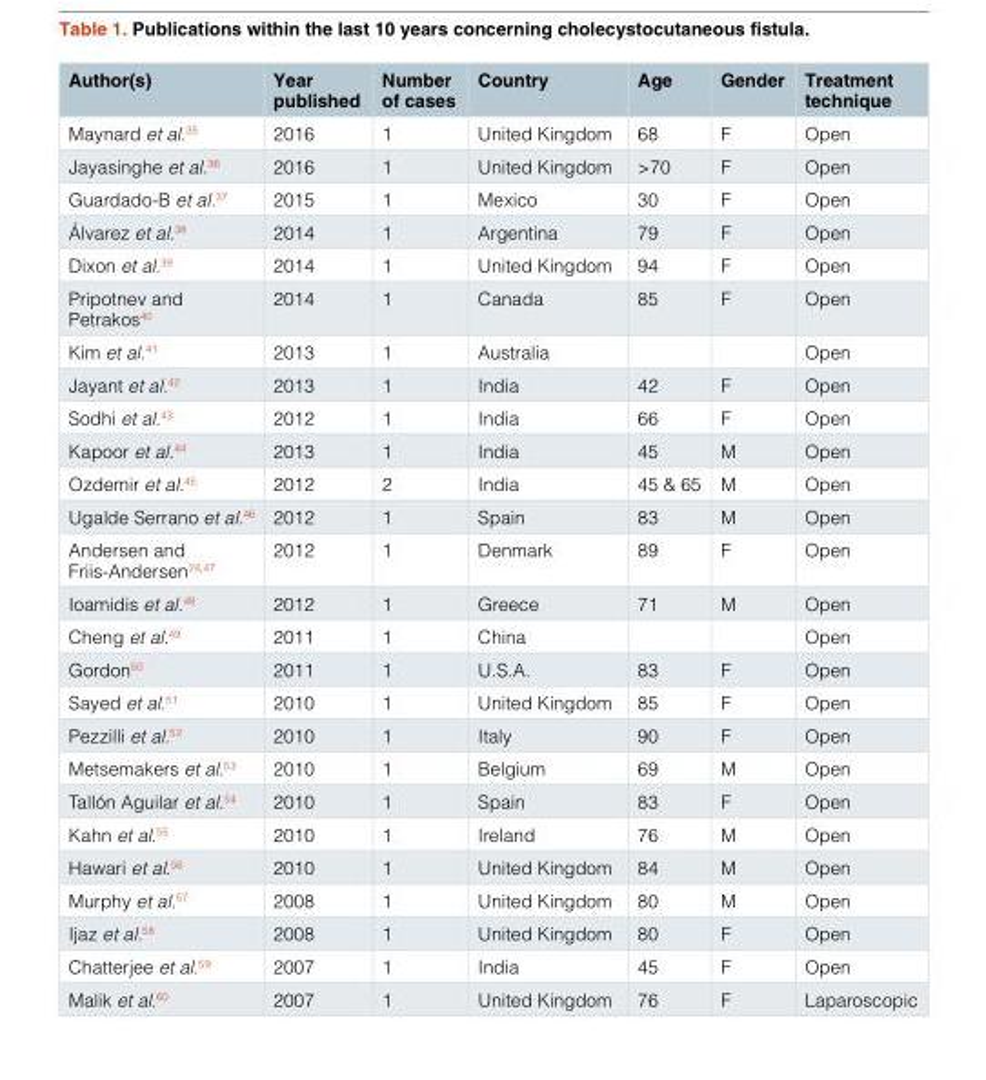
<table><thead><tr><td>Author(s)</td><td>Year published</td><td>Number of cases</td><td>Country</td><td>Age</td><td>Gender</td><td>Treatment technique</td></tr></thead><tbody><tr><td>Maynard et al.<sup>35</sup></td><td>2016</td><td>1</td><td>United Kingdom</td><td>68</td><td>F</td><td>Open</td></tr><tr><td>Jayasinghe et al.<sup>36</sup></td><td>2016</td><td>1</td><td>United Kingdom</td><td>&gt;70</td><td>F</td><td>Open</td></tr><tr><td>Guardado-B et al.<sup>37</sup></td><td>2015</td><td>1</td><td>Mexico</td><td>30</td><td>F</td><td>Open</td></tr><tr><td>Álvarez et al.<sup>38</sup></td><td>2014</td><td>1</td><td>Argentina</td><td>79</td><td>F</td><td>Open</td></tr><tr><td>Dixon et al.<sup>39</sup></td><td>2014</td><td>1</td><td>United Kingdom</td><td>94</td><td>F</td><td>Open</td></tr><tr><td>Pripotnev and Petrakos<sup>40</sup></td><td>2014</td><td>1</td><td>Canada</td><td>85</td><td>F</td><td>Open</td></tr><tr><td>Kim et al.<sup>41</sup></td><td>2013</td><td>1</td><td>Australia</td><td></td><td></td><td>Open</td></tr><tr><td>Jayant et al.<sup>42</sup></td><td>2013</td><td>1</td><td>India</td><td>42</td><td>F</td><td>Open</td></tr><tr><td>Sodhi et al.<sup>43</sup></td><td>2012</td><td>1</td><td>India</td><td>66</td><td>F</td><td>Open</td></tr><tr><td>Kapoor et al.<sup>44</sup></td><td>2013</td><td>1</td><td>India</td><td>45</td><td>M</td><td>Open</td></tr><tr><td>Ozdemir et al.<sup>45</sup></td><td>2012</td><td>2</td><td>India</td><td>45 &amp; 65</td><td>M</td><td>Open</td></tr><tr><td>Ugalde Serrano et al.<sup>46</sup></td><td>2012</td><td>1</td><td>Spain</td><td>83</td><td>M</td><td>Open</td></tr><tr><td>Andersen and Friis-Andersen<sup>24,47</sup></td><td>2012</td><td>1</td><td>Denmark</td><td>89</td><td>F</td><td>Open</td></tr><tr><td>Ioamidis et al.<sup>48</sup></td><td>2012</td><td>1</td><td>Greece</td><td>71</td><td>M</td><td>Open</td></tr><tr><td>Cheng et al.<sup>49</sup></td><td>2011</td><td>1</td><td>China</td><td></td><td></td><td>Open</td></tr><tr><td>Gordon<sup>50</sup></td><td>2011</td><td>1</td><td>U.S.A.</td><td>83</td><td>F</td><td>Open</td></tr><tr><td>Sayed et al.<sup>51</sup></td><td>2010</td><td>1</td><td>United Kingdom</td><td>85</td><td>F</td><td>Open</td></tr><tr><td>Pezzilli et al.<sup>52</sup></td><td>2010</td><td>1</td><td>Italy</td><td>90</td><td>F</td><td>Open</td></tr><tr><td>Metsemakers et al.<sup>53</sup></td><td>2010</td><td>1</td><td>Belgium</td><td>69</td><td>M</td><td>Open</td></tr><tr><td>Tallón Aguilar et al.<sup>54</sup></td><td>2010</td><td>1</td><td>Spain</td><td>83</td><td>F</td><td>Open</td></tr><tr><td>Kahn et al.<sup>55</sup></td><td>2010</td><td>1</td><td>Ireland</td><td>76</td><td>M</td><td>Open</td></tr><tr><td>Hawari et al.<sup>56</sup></td><td>2010</td><td>1</td><td>United Kingdom</td><td>84</td><td>M</td><td>Open</td></tr><tr><td>Murphy et al.<sup>57</sup></td><td>2008</td><td>1</td><td>United Kingdom</td><td>80</td><td>M</td><td>Open</td></tr><tr><td>Ijaz et al.<sup>58</sup></td><td>2008</td><td>1</td><td>United Kingdom</td><td>80</td><td>F</td><td>Open</td></tr><tr><td>Chatterjee et al.<sup>59</sup></td><td>2007</td><td>1</td><td>India</td><td>45</td><td>F</td><td>Open</td></tr><tr><td>Malik et al.<sup>60</sup></td><td>2007</td><td>1</td><td>United Kingdom</td><td>76</td><td>F</td><td>Laparoscopic</td></tr></tbody></table>